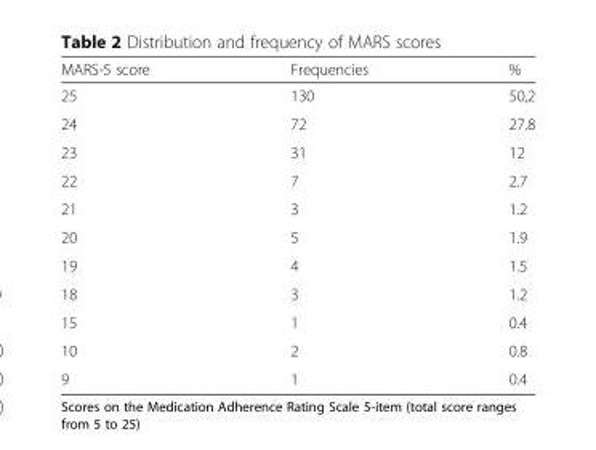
<table><thead><tr><td>MARS-5 score</td><td>Frequencies</td><td>%</td></tr></thead><tbody><tr><td>25</td><td>130</td><td>50,2</td></tr><tr><td>24</td><td>72</td><td>27.8</td></tr><tr><td>23</td><td>31</td><td>12</td></tr><tr><td>22</td><td>7</td><td>2.7</td></tr><tr><td>21</td><td>3</td><td>1.2</td></tr><tr><td>20</td><td>5</td><td>1.9</td></tr><tr><td>19</td><td>4</td><td>1.5</td></tr><tr><td>18</td><td>3</td><td>1.2</td></tr><tr><td>15</td><td>1</td><td>0.4</td></tr><tr><td>10</td><td>2</td><td>0.8</td></tr><tr><td>9</td><td>1</td><td>0.4</td></tr></tbody></table>